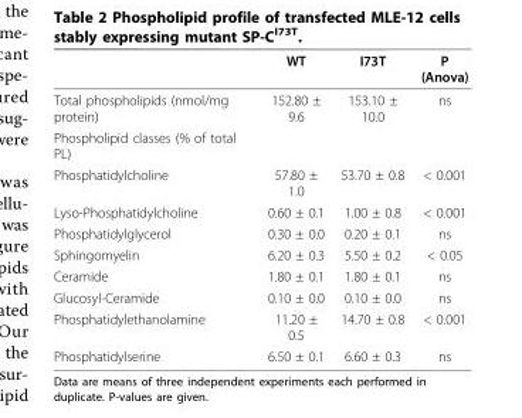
<table><thead><tr><td></td><td>WT</td><td>I73T</td><td>P (Anova)</td></tr></thead><tbody><tr><td>Total phospholipids (nmol/mg protein)</td><td>152.80 ± 9.6</td><td>153.10 ± 10.0</td><td>ns</td></tr><tr><td colspan="4">Phospholipid classes (% of total PL)</td></tr><tr><td>Phosphatidylcholine</td><td>57.80 ± 1.0</td><td>53.70 ± 0.8</td><td>&lt; 0.001</td></tr><tr><td>Lyso-Phosphatidylcholine</td><td>0.60 ± 0.1</td><td>1.00 ± 0.8</td><td>&lt; 0.001</td></tr><tr><td>Phosphatidylglycerol</td><td>0.30 ± 0.0</td><td>0.20 ± 0.1</td><td>ns</td></tr><tr><td>Sphingomyelin</td><td>6.20 ± 0.3</td><td>5.50 ± 0.2</td><td>&lt; 0.05</td></tr><tr><td>Ceramide</td><td>1.80 ± 0.1</td><td>1.80 ± 0.1</td><td>ns</td></tr><tr><td>Glucosyl-Ceramide</td><td>0.10 ± 0.0</td><td>0.10 ± 0.0</td><td>ns</td></tr><tr><td>Phosphatidylethanolamine</td><td>11.20 ± 0.5</td><td>14.70 ± 0.8</td><td>&lt; 0.001</td></tr><tr><td>Phosphatidylserine</td><td>6.50 ± 0.1</td><td>6.60 ± 0.3</td><td>ns</td></tr></tbody></table>